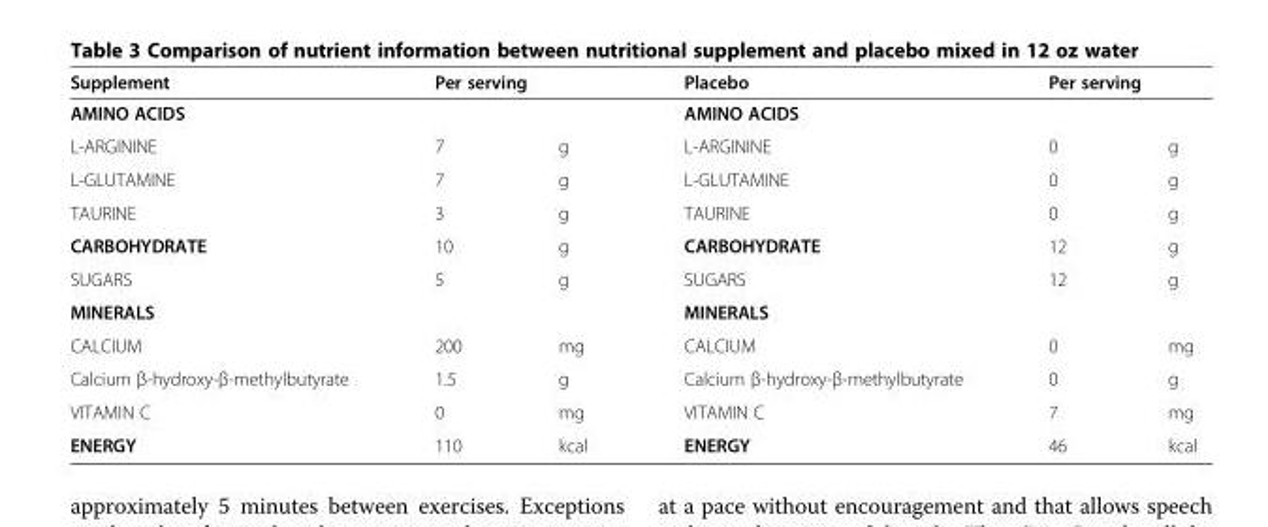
<table><thead><tr><td rowspan="2">Supplement AMINO ACIDS</td><td colspan="2">Per serving</td><td rowspan="2">Placebo AMINO ACIDS</td><td colspan="2">Per serving</td></tr><tr><td></td><td></td><td></td><td></td></tr></thead><tbody><tr><td>L-ARGININE</td><td>7</td><td>g</td><td>L-ARGININE</td><td>0</td><td>g</td></tr><tr><td>L-GLUTAMINE</td><td>7</td><td>g</td><td>L-GLUTAMINE</td><td>0</td><td>g</td></tr><tr><td>TAURINE</td><td>3</td><td>g</td><td>TAURINE</td><td>0</td><td>g</td></tr><tr><td>CARBOHYDRATE</td><td>10</td><td>g</td><td>CARBOHYDRATE</td><td>12</td><td>g</td></tr><tr><td>SUGARS</td><td>5</td><td>g</td><td>SUGARS</td><td>12</td><td>g</td></tr><tr><td>MINERALS</td><td></td><td></td><td>MINERALS</td><td></td><td></td></tr><tr><td>CALCIUM</td><td>200</td><td>mg</td><td>CALCIUM</td><td>0</td><td>mg</td></tr><tr><td>Calcium β-hydroxy-β-methylbutyrate</td><td>1.5</td><td>g</td><td>Calcium β-hydroxy-β-methylbutyrate</td><td>0</td><td>g</td></tr><tr><td>VITAMIN C</td><td>0</td><td>mg</td><td>VITAMIN C</td><td>7</td><td>mg</td></tr><tr><td>ENERGY</td><td>110</td><td>kcal</td><td>ENERGY</td><td>46</td><td>kcal</td></tr></tbody></table>